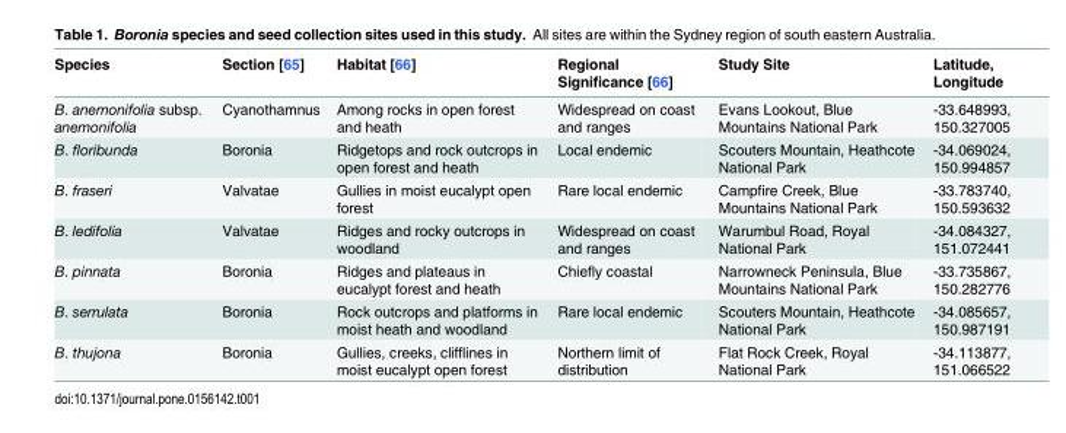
<table><thead><tr><td>Species</td><td>Section [65]</td><td>Habitat [66]</td><td>Regional Significance [66]</td><td>Study Site</td><td>Latitude, Longitude</td></tr></thead><tbody><tr><td>B. anemonifolia subsp. anemonifolia</td><td>Cyanothamnus</td><td>Among rocks in open forest and heath</td><td>Widespread on coast and ranges</td><td>Evans Lookout, Blue Mountains National Park</td><td>-33.648993, 150.327005</td></tr><tr><td>B. floribunda</td><td>Boronia</td><td>Ridgetops and rock outcrops in open forest and heath</td><td>Local endemic</td><td>Scouters Mountain, Heathcote National Park</td><td>-34.069024, 150.994857</td></tr><tr><td>B. fraseri</td><td>Valvatae</td><td>Gullies in moist eucalypt open forest</td><td>Rare local endemic</td><td>Campfire Creek, Blue Mountains National Park</td><td>-33.783740, 150.593632</td></tr><tr><td>B. ledifolia</td><td>Valvatae</td><td>Ridges and rocky outcrops in woodland</td><td>Widespread on coast and ranges</td><td>Warumbul Road, Royal National Park</td><td>-34.084327, 151.072441</td></tr><tr><td>B. pinnata</td><td>Boronia</td><td>Ridges and plateaus in eucalypt forest and heath</td><td>Chiefly coastal</td><td>Narrowneck Peninsula, Blue Mountains National Park</td><td>-33.735867, 150.282776</td></tr><tr><td>B. serrulata</td><td>Boronia</td><td>Rock outcrops and platforms in moist heath and woodland</td><td>Rare local endemic</td><td>Scouters Mountain, Heathcote National Park</td><td>-34.085657, 150.987191</td></tr><tr><td>B. thujona</td><td>Boronia</td><td>Gullies, creeks, clifflines in moist eucalypt open forest</td><td>Northern limit of distribution</td><td>Flat Rock Creek, Royal National Park</td><td>-34.113877, 151.066522</td></tr></tbody></table>